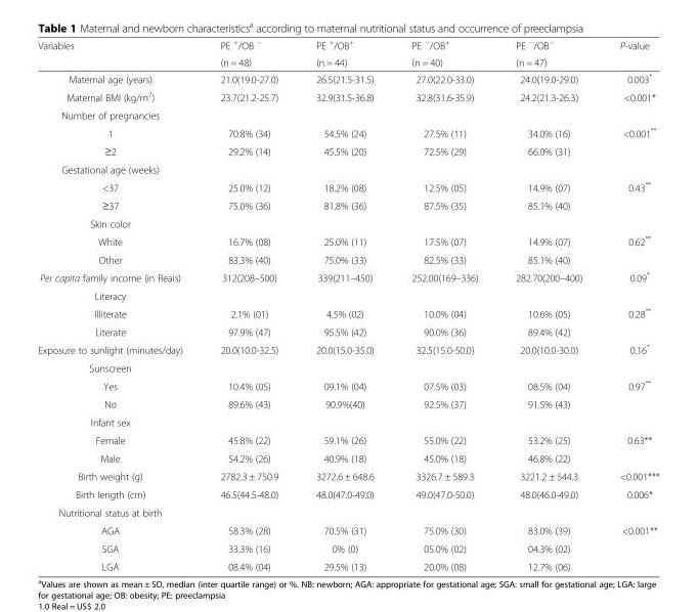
<table><thead><tr><td rowspan="2">Variables</td><td rowspan="2">PE <sup>+</sup>/OB <sup>−</sup> (n = 48)</td><td rowspan="2">PE <sup>+</sup>/OB<sup>+</sup> (n = 44)</td><td rowspan="2">PE <sup>−</sup>/OB<sup>+</sup> (n = 40)</td><td rowspan="2">PE <sup>−</sup>/OB<sup>−</sup> (n = 47)</td><td rowspan="2">P-value</td></tr><tr></tr></thead><tbody><tr><td>Maternal age (years)</td><td>21.0(19.0-27.0)</td><td>26.5(21.5-31.5)</td><td>27.0(22.0-33.0)</td><td>24.0(19.0-29.0)</td><td>0.003*</td></tr><tr><td>Maternal BMI (kg/m<sup>2</sup>)</td><td>23.7(21.2-25.7)</td><td>32.9(31.5-36.8)</td><td>32.8(31.6-35.9)</td><td>24.2(21.3-26.3)</td><td>&lt;0.001*</td></tr><tr><td colspan="6">Number of pregnancies</td></tr><tr><td>1</td><td>70.8% (34)</td><td>54.5% (24)</td><td>27.5% (11)</td><td>34.0% (16)</td><td rowspan="2">&lt;0.001**</td></tr><tr><td>≥2</td><td>29.2% (14)</td><td>45.5% (20)</td><td>72.5% (29)</td><td>66.0% (31)</td></tr><tr><td colspan="6">Gestational age (weeks)</td></tr><tr><td>&lt;37</td><td>25.0% (12)</td><td>18.2% (08)</td><td>12.5% (05)</td><td>14.9% (07)</td><td rowspan="2">0.43**</td></tr><tr><td>≥37</td><td>75.0% (36)</td><td>81.8% (36)</td><td>87.5% (35)</td><td>85.1% (40)</td></tr><tr><td colspan="6">Skin color</td></tr><tr><td>White</td><td>16.7% (08)</td><td>25.0% (11)</td><td>17.5% (07)</td><td>14.9% (07)</td><td rowspan="2">0.62**</td></tr><tr><td>Other</td><td>83.3% (40)</td><td>75.0% (33)</td><td>82.5% (33)</td><td>85.1% (40)</td></tr><tr><td>Per capita family income (in Reais)</td><td>312(208–500)</td><td>339(211–450)</td><td>252.00(169–336)</td><td>282.70(200–400)</td><td>0.09*</td></tr><tr><td colspan="6">Literacy</td></tr><tr><td>Illiterate</td><td>2.1% (01)</td><td>4.5% (02)</td><td>10.0% (04)</td><td>10.6% (05)</td><td rowspan="2">0.28**</td></tr><tr><td>Literate</td><td>97.9% (47)</td><td>95.5% (42)</td><td>90.0% (36)</td><td>89.4% (42)</td></tr><tr><td>Exposure to sunlight (minutes/day)</td><td>20.0(10.0-32.5)</td><td>20.0(15.0-35.0)</td><td>32.5(15.0-50.0)</td><td>20.0(10.0-30.0)</td><td>0.16*</td></tr><tr><td colspan="6">Sunscreen</td></tr><tr><td>Yes</td><td>10.4% (05)</td><td>09.1% (04)</td><td>07.5% (03)</td><td>08.5% (04)</td><td rowspan="2">0.97**</td></tr><tr><td>No</td><td>89.6% (43)</td><td>90.9%(40)</td><td>92.5% (37)</td><td>91.5% (43)</td></tr><tr><td colspan="6">Infant sex</td></tr><tr><td>Female</td><td>45.8% (22)</td><td>59.1% (26)</td><td>55.0% (22)</td><td>53.2% (25)</td><td rowspan="2">0.63**</td></tr><tr><td>Male</td><td>54.2% (26)</td><td>40.9% (18)</td><td>45.0% (18)</td><td>46.8% (22)</td></tr><tr><td>Birth weight (g)</td><td>2782.3 ± 750.9</td><td>3272.6 ± 648.6</td><td>3326.7 ± 589.3</td><td>3221.2 ± 544.3</td><td>&lt;0.001***</td></tr><tr><td>Birth length (cm)</td><td>46.5(44.5-48.0)</td><td>48.0(47.0-49.0)</td><td>49.0(47.0-50.0)</td><td>48.0(46.0-49.0)</td><td>0.006*</td></tr><tr><td colspan="6">Nutritional status at birth</td></tr><tr><td>AGA</td><td>58.3% (28)</td><td>70.5% (31)</td><td>75.0% (30)</td><td>83.0% (39)</td><td rowspan="3">&lt;0.001**</td></tr><tr><td>SGA</td><td>33.3% (16)</td><td>0% (0)</td><td>05.0% (02)</td><td>04.3% (02)</td></tr><tr><td>LGA</td><td>08.4% (04)</td><td>29.5% (13)</td><td>20.0% (08)</td><td>12.7% (06)</td></tr></tbody></table>